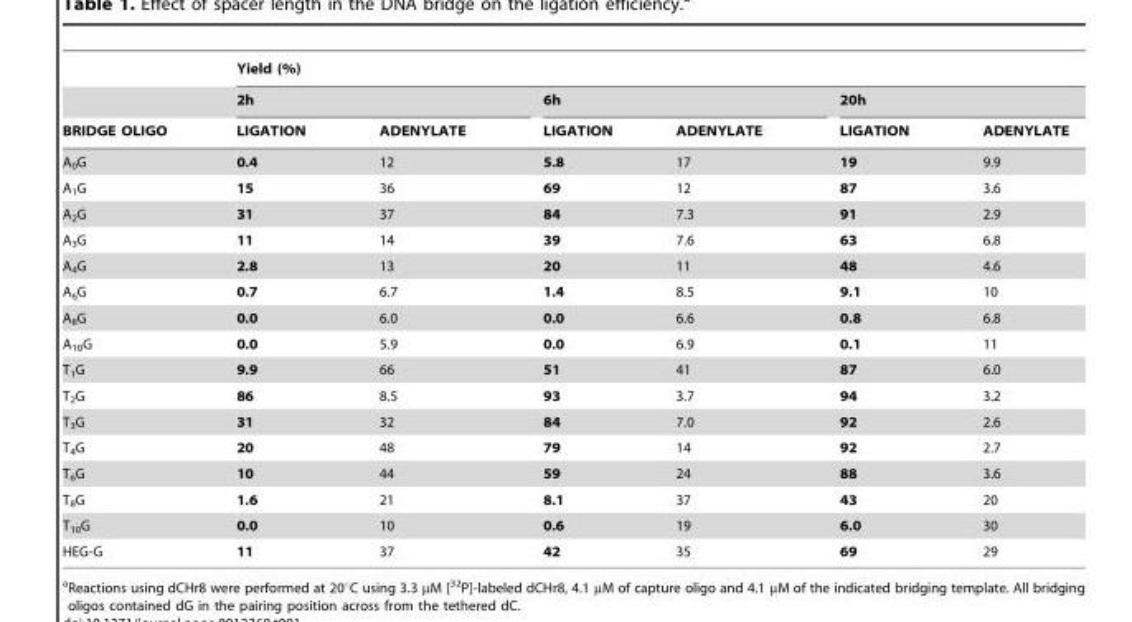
<table><thead><tr><td rowspan="3">BRIDGE OLIGO</td><td colspan="6">Yield (%)</td></tr><tr><td colspan="2">2h</td><td colspan="2">6h</td><td colspan="2">20h</td></tr><tr><td>LIGATION</td><td>ADENYLATE</td><td>LIGATION</td><td>ADENYLATE</td><td>LIGATION</td><td>ADENYLATE</td></tr></thead><tbody><tr><td>A<sub>0</sub>G</td><td>0.4</td><td>12</td><td>5.8</td><td>17</td><td>19</td><td>9.9</td></tr><tr><td>A<sub>1</sub>G</td><td>15</td><td>36</td><td>69</td><td>12</td><td>87</td><td>3.6</td></tr><tr><td>A<sub>2</sub>G</td><td>31</td><td>37</td><td>84</td><td>7.3</td><td>91</td><td>2.9</td></tr><tr><td>A<sub>3</sub>G</td><td>11</td><td>14</td><td>39</td><td>7.6</td><td>63</td><td>6.8</td></tr><tr><td>A<sub>4</sub>G</td><td>2.8</td><td>13</td><td>20</td><td>11</td><td>48</td><td>4.6</td></tr><tr><td>A<sub>6</sub>G</td><td>0.7</td><td>6.7</td><td>1.4</td><td>8.5</td><td>9.1</td><td>10</td></tr><tr><td>A<sub>8</sub>G</td><td>0.0</td><td>6.0</td><td>0.0</td><td>6.6</td><td>0.8</td><td>6.8</td></tr><tr><td>A<sub>10</sub>G</td><td>0.0</td><td>5.9</td><td>0.0</td><td>6.9</td><td>0.1</td><td>11</td></tr><tr><td>T<sub>1</sub>G</td><td>9.9</td><td>66</td><td>51</td><td>41</td><td>87</td><td>6.0</td></tr><tr><td>T<sub>2</sub>G</td><td>86</td><td>8.5</td><td>93</td><td>3.7</td><td>94</td><td>3.2</td></tr><tr><td>T<sub>3</sub>G</td><td>31</td><td>32</td><td>84</td><td>7.0</td><td>92</td><td>2.6</td></tr><tr><td>T<sub>4</sub>G</td><td>20</td><td>48</td><td>79</td><td>14</td><td>92</td><td>2.7</td></tr><tr><td>T<sub>6</sub>G</td><td>10</td><td>44</td><td>59</td><td>24</td><td>88</td><td>3.6</td></tr><tr><td>T<sub>8</sub>G</td><td>1.6</td><td>21</td><td>8.1</td><td>37</td><td>43</td><td>20</td></tr><tr><td>T<sub>10</sub>G</td><td>0.0</td><td>10</td><td>0.6</td><td>19</td><td>6.0</td><td>30</td></tr><tr><td>HEG-G</td><td>11</td><td>37</td><td>42</td><td>35</td><td>69</td><td>29</td></tr></tbody></table>